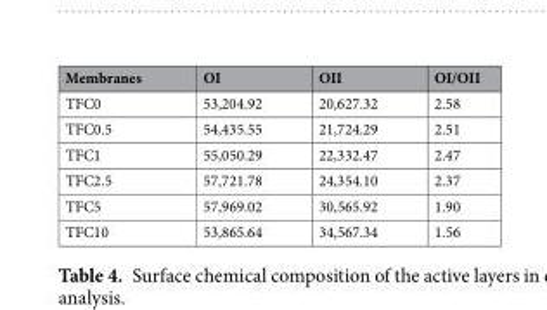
<table><thead><tr><td>Membranes</td><td>OI</td><td>OII</td><td>OI/OII</td></tr></thead><tbody><tr><td>TFC0</td><td>53,204.92</td><td>20,627.32</td><td>2.58</td></tr><tr><td>TFC0.5</td><td>54,435.55</td><td>21,724.29</td><td>2.51</td></tr><tr><td>TFC1</td><td>55,050.29</td><td>22,332.47</td><td>2.47</td></tr><tr><td>TFC2.5</td><td>57,721.78</td><td>24,354.10</td><td>2.37</td></tr><tr><td>TFC5</td><td>57,969.02</td><td>30,565.92</td><td>1.90</td></tr><tr><td>TFC10</td><td>53,865.64</td><td>34,567.34</td><td>1.56</td></tr></tbody></table>